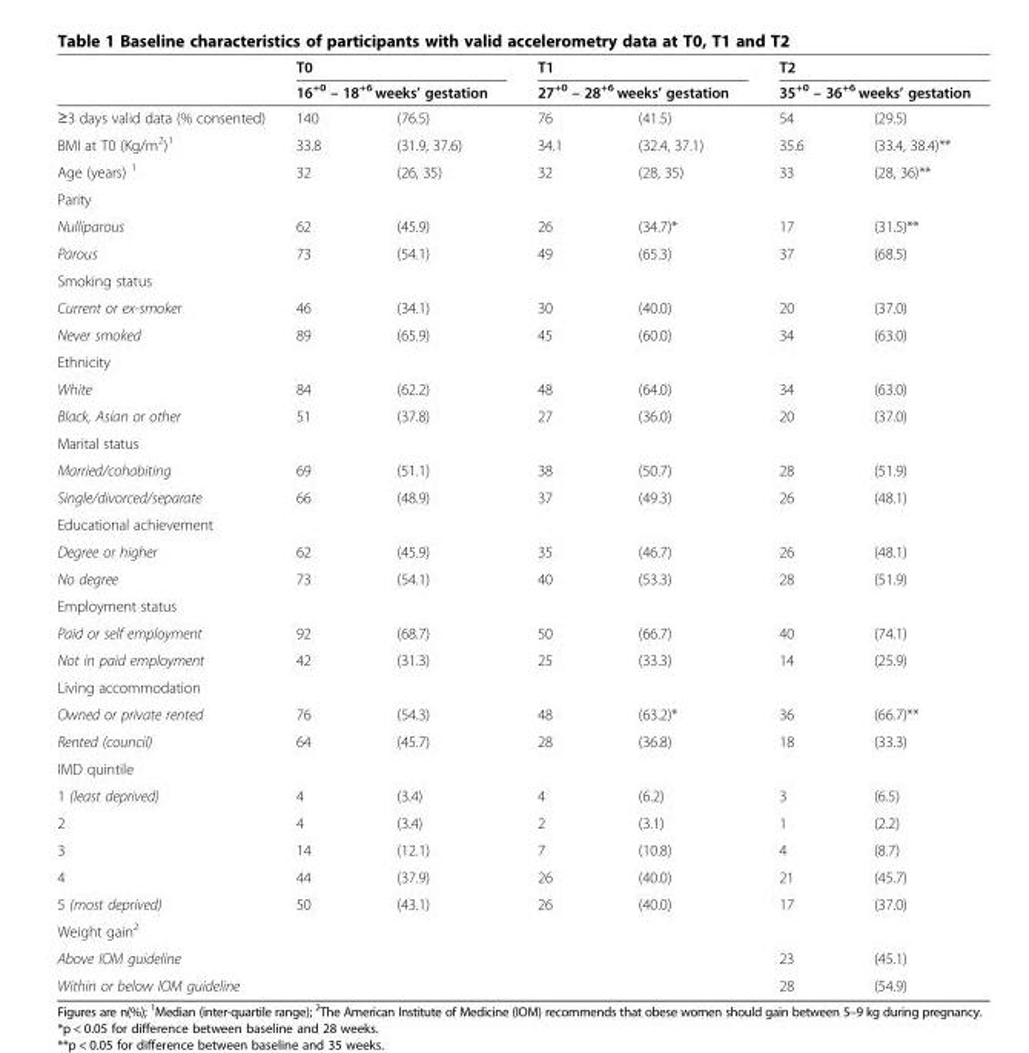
<table><thead><tr><td rowspan="3">≥3 days valid data (% consented)</td><td rowspan="2" colspan="2">T0 16<sup>+0</sup> – 18<sup>+6</sup> weeks’ gestation</td><td rowspan="2" colspan="2">T1 27<sup>+0</sup> – 28<sup>+6</sup> weeks’ gestation</td><td rowspan="2" colspan="2">T2 35<sup>+0</sup> – 36<sup>+6</sup> weeks’ gestation</td></tr><tr></tr><tr><td>140</td><td>(76.5)</td><td>76</td><td>(41.5)</td><td>54</td><td>(29.5)</td></tr></thead><tbody><tr><td>BMI at T0 (Kg/m<sup>2</sup>)<sup>1</sup></td><td>33.8</td><td>(31.9, 37.6)</td><td>34.1</td><td>(32.4, 37.1)</td><td>35.6</td><td>(33.4, 38.4)**</td></tr><tr><td>Age (years) <sup>1</sup></td><td>32</td><td>(26, 35)</td><td>32</td><td>(28, 35)</td><td>33</td><td>(28, 36)**</td></tr><tr><td colspan="7">Parity</td></tr><tr><td>Nulliparous</td><td>62</td><td>(45.9)</td><td>26</td><td>(34.7)*</td><td>17</td><td>(31.5)**</td></tr><tr><td>Parous</td><td>73</td><td>(54.1)</td><td>49</td><td>(65.3)</td><td>37</td><td>(68.5)</td></tr><tr><td colspan="7">Smoking status</td></tr><tr><td>Current or ex-smoker</td><td>46</td><td>(34.1)</td><td>30</td><td>(40.0)</td><td>20</td><td>(37.0)</td></tr><tr><td>Never smoked</td><td>89</td><td>(65.9)</td><td>45</td><td>(60.0)</td><td>34</td><td>(63.0)</td></tr><tr><td colspan="7">Ethnicity</td></tr><tr><td>White</td><td>84</td><td>(62.2)</td><td>48</td><td>(64.0)</td><td>34</td><td>(63.0)</td></tr><tr><td>Black, Asian or other</td><td>51</td><td>(37.8)</td><td>27</td><td>(36.0)</td><td>20</td><td>(37.0)</td></tr><tr><td colspan="7">Marital status</td></tr><tr><td>Married/cohabiting</td><td>69</td><td>(51.1)</td><td>38</td><td>(50.7)</td><td>28</td><td>(51.9)</td></tr><tr><td>Single/divorced/separate</td><td>66</td><td>(48.9)</td><td>37</td><td>(49.3)</td><td>26</td><td>(48.1)</td></tr><tr><td colspan="7">Educational achievement</td></tr><tr><td>Degree or higher</td><td>62</td><td>(45.9)</td><td>35</td><td>(46.7)</td><td>26</td><td>(48.1)</td></tr><tr><td>No degree</td><td>73</td><td>(54.1)</td><td>40</td><td>(53.3)</td><td>28</td><td>(51.9)</td></tr><tr><td colspan="7">Employment status</td></tr><tr><td>Paid or self employment</td><td>92</td><td>(68.7)</td><td>50</td><td>(66.7)</td><td>40</td><td>(74.1)</td></tr><tr><td>Not in paid employment</td><td>42</td><td>(31.3)</td><td>25</td><td>(33.3)</td><td>14</td><td>(25.9)</td></tr><tr><td colspan="7">Living accommodation</td></tr><tr><td>Owned or private rented</td><td>76</td><td>(54.3)</td><td>48</td><td>(63.2)*</td><td>36</td><td>(66.7)**</td></tr><tr><td>Rented (council)</td><td>64</td><td>(45.7)</td><td>28</td><td>(36.8)</td><td>18</td><td>(33.3)</td></tr><tr><td colspan="7">IMD quintile</td></tr><tr><td>1 (least deprived)</td><td>4</td><td>(3.4)</td><td>4</td><td>(6.2)</td><td>3</td><td>(6.5)</td></tr><tr><td>2</td><td>4</td><td>(3.4)</td><td>2</td><td>(3.1)</td><td>1</td><td>(2.2)</td></tr><tr><td>3</td><td>14</td><td>(12.1)</td><td>7</td><td>(10.8)</td><td>4</td><td>(8.7)</td></tr><tr><td>4</td><td>44</td><td>(37.9)</td><td>26</td><td>(40.0)</td><td>21</td><td>(45.7)</td></tr><tr><td>5 (most deprived)</td><td>50</td><td>(43.1)</td><td>26</td><td>(40.0)</td><td>17</td><td>(37.0)</td></tr><tr><td colspan="7">Weight gain<sup>2</sup></td></tr><tr><td>Above IOM guideline</td><td></td><td></td><td></td><td></td><td>23</td><td>(45.1)</td></tr><tr><td>Within or below IOM guideline</td><td></td><td></td><td></td><td></td><td>28</td><td>(54.9)</td></tr></tbody></table>